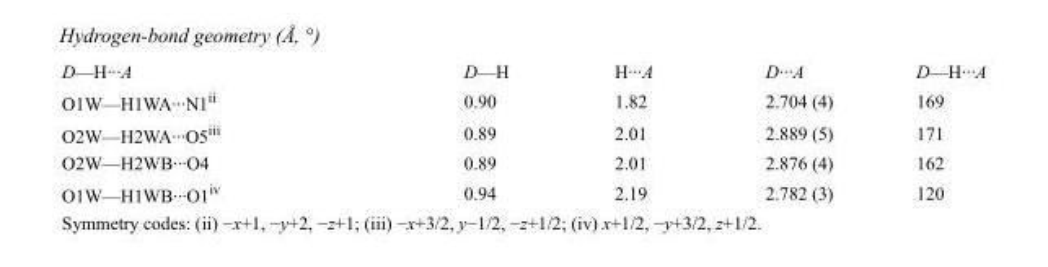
<table><tbody><tr><td>D—H···A</td><td>D—H</td><td>H···A</td><td>D···A</td><td>D—H···A</td></tr><tr><td>O1W—H1WA···N1<sup>ii</sup></td><td>0.90</td><td>1.82</td><td>2.704 (4)</td><td>169</td></tr><tr><td>O2W—H2WA···O5<sup>iii</sup></td><td>0.89</td><td>2.01</td><td>2.889 (5)</td><td>171</td></tr><tr><td>O2W—H2WB···O4</td><td>0.89</td><td>2.01</td><td>2.876 (4)</td><td>162</td></tr><tr><td>O1W—H1WB···O1<sup>iv</sup></td><td>0.94</td><td>2.19</td><td>2.782 (3)</td><td>120</td></tr></tbody></table>